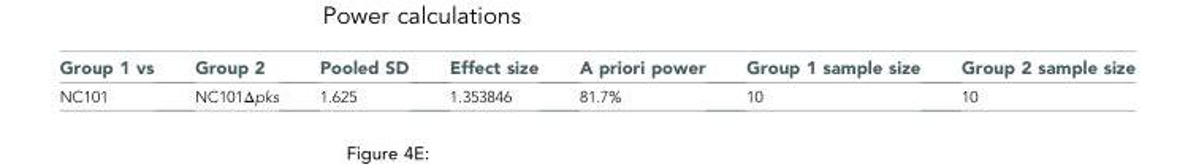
<table><thead><tr><td>Group 1 vs</td><td>Group 2</td><td>Pooled SD</td><td>Effect size</td><td>A priori power</td><td>Group 1 sample size</td><td>Group 2 sample size</td></tr></thead><tbody><tr><td>NC101</td><td>NC101Δpks</td><td>1.625</td><td>1.353846</td><td>81.7%</td><td>10</td><td>10</td></tr></tbody></table>